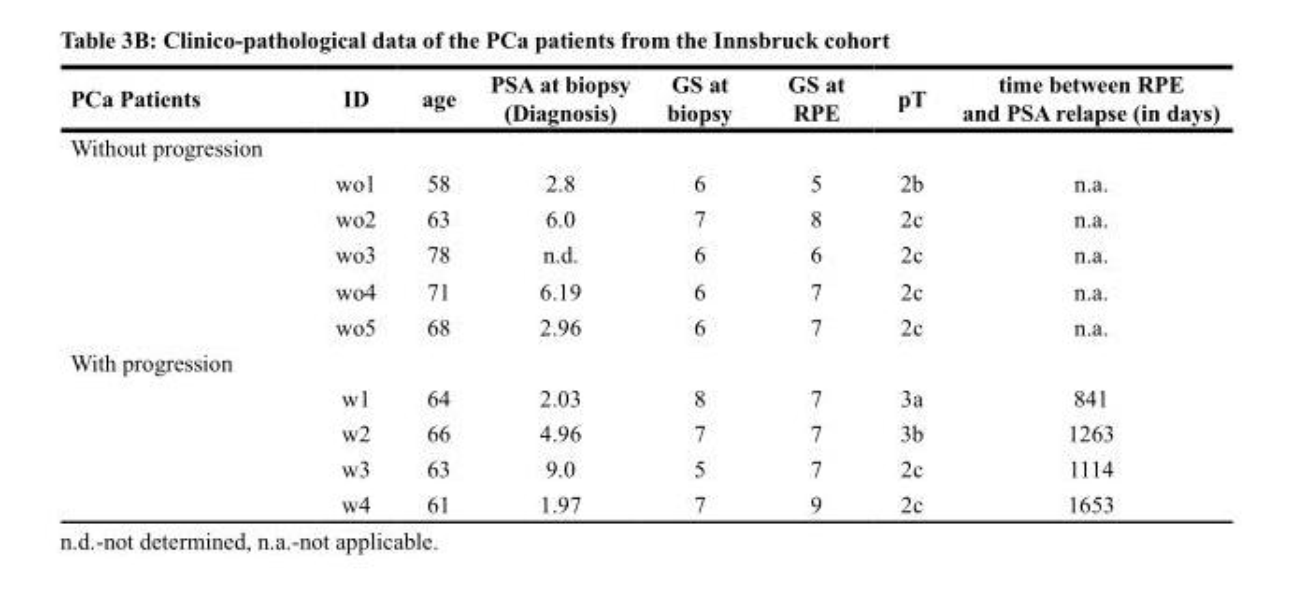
<table><thead><tr><td>PCa Patients</td><td>ID</td><td>age</td><td>PSA at biopsy (Diagnosis)</td><td>GS at biopsy</td><td>GS at RPE</td><td>pT</td><td>time between RPE and PSA relapse (in days)</td></tr></thead><tbody><tr><td colspan="8">Without progression</td></tr><tr><td></td><td>wo1</td><td>58</td><td>2.8</td><td>6</td><td>5</td><td>2b</td><td>n.a.</td></tr><tr><td></td><td>wo2</td><td>63</td><td>6.0</td><td>7</td><td>8</td><td>2c</td><td>n.a.</td></tr><tr><td></td><td>wo3</td><td>78</td><td>n.d.</td><td>6</td><td>6</td><td>2c</td><td>n.a.</td></tr><tr><td></td><td>wo4</td><td>71</td><td>6.19</td><td>6</td><td>7</td><td>2c</td><td>n.a.</td></tr><tr><td></td><td>wo5</td><td>68</td><td>2.96</td><td>6</td><td>7</td><td>2c</td><td>n.a.</td></tr><tr><td colspan="8">With progression</td></tr><tr><td></td><td>w1</td><td>64</td><td>2.03</td><td>8</td><td>7</td><td>3a</td><td>841</td></tr><tr><td></td><td>w2</td><td>66</td><td>4.96</td><td>7</td><td>7</td><td>3b</td><td>1263</td></tr><tr><td></td><td>w3</td><td>63</td><td>9.0</td><td>5</td><td>7</td><td>2c</td><td>1114</td></tr><tr><td></td><td>w4</td><td>61</td><td>1.97</td><td>7</td><td>9</td><td>2c</td><td>1653</td></tr></tbody></table>